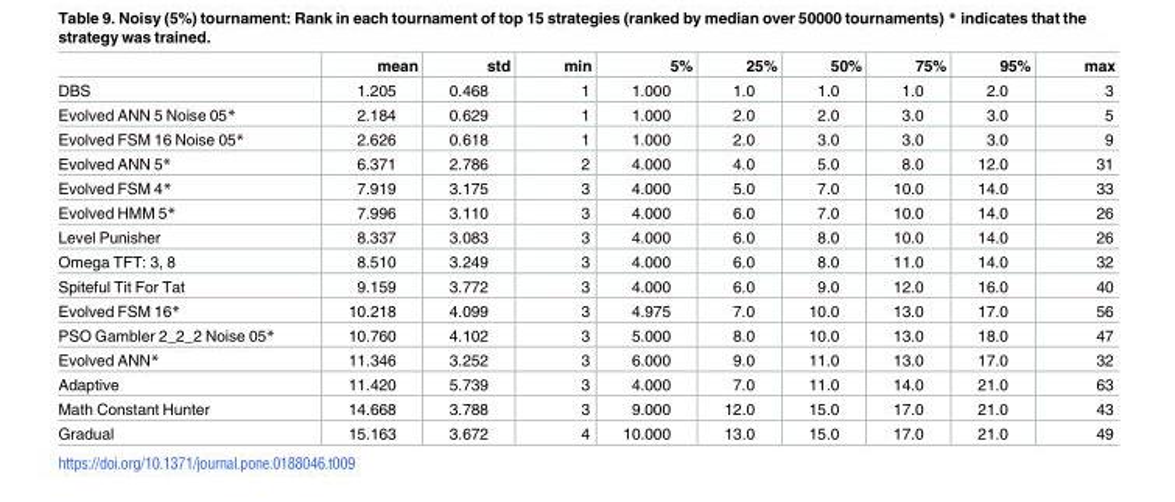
<table><thead><tr><td></td><td>mean</td><td>std</td><td>min</td><td>5%</td><td>25%</td><td>50%</td><td>75%</td><td>95%</td><td>max</td></tr></thead><tbody><tr><td>DBS</td><td>1.205</td><td>0.468</td><td>1</td><td>1.000</td><td>1.0</td><td>1.0</td><td>1.0</td><td>2.0</td><td>3</td></tr><tr><td>Evolved ANN 5 Noise 05*</td><td>2.184</td><td>0.629</td><td>1</td><td>1.000</td><td>2.0</td><td>2.0</td><td>3.0</td><td>3.0</td><td>5</td></tr><tr><td>Evolved FSM 16 Noise 05*</td><td>2.626</td><td>0.618</td><td>1</td><td>1.000</td><td>2.0</td><td>3.0</td><td>3.0</td><td>3.0</td><td>9</td></tr><tr><td>Evolved ANN 5*</td><td>6.371</td><td>2.786</td><td>2</td><td>4.000</td><td>4.0</td><td>5.0</td><td>8.0</td><td>12.0</td><td>31</td></tr><tr><td>Evolved FSM 4*</td><td>7.919</td><td>3.175</td><td>3</td><td>4.000</td><td>5.0</td><td>7.0</td><td>10.0</td><td>14.0</td><td>33</td></tr><tr><td>Evolved HMM 5*</td><td>7.996</td><td>3.110</td><td>3</td><td>4.000</td><td>6.0</td><td>7.0</td><td>10.0</td><td>14.0</td><td>26</td></tr><tr><td>Level Punisher</td><td>8.337</td><td>3.083</td><td>3</td><td>4.000</td><td>6.0</td><td>8.0</td><td>10.0</td><td>14.0</td><td>26</td></tr><tr><td>Omega TFT: 3, 8</td><td>8.510</td><td>3.249</td><td>3</td><td>4.000</td><td>6.0</td><td>8.0</td><td>11.0</td><td>14.0</td><td>32</td></tr><tr><td>Spiteful Tit For Tat</td><td>9.159</td><td>3.772</td><td>3</td><td>4.000</td><td>6.0</td><td>9.0</td><td>12.0</td><td>16.0</td><td>40</td></tr><tr><td>Evolved FSM 16*</td><td>10.218</td><td>4.099</td><td>3</td><td>4.975</td><td>7.0</td><td>10.0</td><td>13.0</td><td>17.0</td><td>56</td></tr><tr><td>PSO Gambler 2_2_2 Noise 05*</td><td>10.760</td><td>4.102</td><td>3</td><td>5.000</td><td>8.0</td><td>10.0</td><td>13.0</td><td>18.0</td><td>47</td></tr><tr><td>Evolved ANN*</td><td>11.346</td><td>3.252</td><td>3</td><td>6.000</td><td>9.0</td><td>11.0</td><td>13.0</td><td>17.0</td><td>32</td></tr><tr><td>Adaptive</td><td>11.420</td><td>5.739</td><td>3</td><td>4.000</td><td>7.0</td><td>11.0</td><td>14.0</td><td>21.0</td><td>63</td></tr><tr><td>Math Constant Hunter</td><td>14.668</td><td>3.788</td><td>3</td><td>9.000</td><td>12.0</td><td>15.0</td><td>17.0</td><td>21.0</td><td>43</td></tr><tr><td>Gradual</td><td>15.163</td><td>3.672</td><td>4</td><td>10.000</td><td>13.0</td><td>15.0</td><td>17.0</td><td>21.0</td><td>49</td></tr></tbody></table>